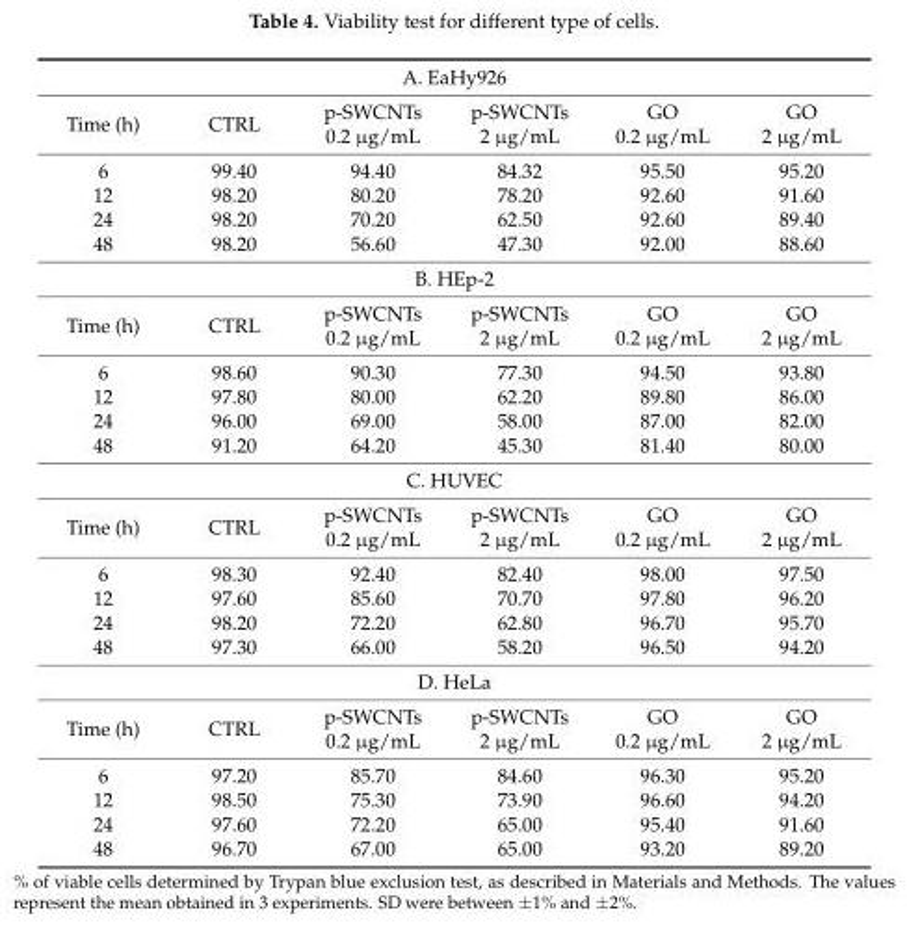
<table><tbody><tr><td colspan="6">A. EaHy926</td></tr><tr><td>Time (h)</td><td>CTRL</td><td>p-SWCNTs 0.2 µg/mL</td><td>p-SWCNTs 2 µg/mL</td><td>GO 0.2 µg/mL</td><td>GO 2 µg/mL</td></tr><tr><td>6</td><td>99.40</td><td>94.40</td><td>84.32</td><td>95.50</td><td>95.20</td></tr><tr><td>12</td><td>98.20</td><td>80.20</td><td>78.20</td><td>92.60</td><td>91.60</td></tr><tr><td>24</td><td>98.20</td><td>70.20</td><td>62.50</td><td>92.60</td><td>89.40</td></tr><tr><td>48</td><td>98.20</td><td>56.60</td><td>47.30</td><td>92.00</td><td>88.60</td></tr><tr><td colspan="6">B. HEp-2</td></tr><tr><td>Time (h)</td><td>CTRL</td><td>p-SWCNTs 0.2 µg/mL</td><td>p-SWCNTs 2 µg/mL</td><td>GO 0.2 µg/mL</td><td>GO 2 µg/mL</td></tr><tr><td>6</td><td>98.60</td><td>90.30</td><td>77.30</td><td>94.50</td><td>93.80</td></tr><tr><td>12</td><td>97.80</td><td>80.00</td><td>62.20</td><td>89.80</td><td>86.00</td></tr><tr><td>24</td><td>96.00</td><td>69.00</td><td>58.00</td><td>87.00</td><td>82.00</td></tr><tr><td>48</td><td>91.20</td><td>64.20</td><td>45.30</td><td>81.40</td><td>80.00</td></tr><tr><td colspan="6">C. HUVEC</td></tr><tr><td>Time (h)</td><td>CTRL</td><td>p-SWCNTs 0.2 µg/mL</td><td>p-SWCNTs 2 µg/mL</td><td>GO 0.2 µg/mL</td><td>GO 2 µg/mL</td></tr><tr><td>6</td><td>98.30</td><td>92.40</td><td>82.40</td><td>98.00</td><td>97.50</td></tr><tr><td>12</td><td>97.60</td><td>85.60</td><td>70.70</td><td>97.80</td><td>96.20</td></tr><tr><td>24</td><td>98.20</td><td>72.20</td><td>62.80</td><td>96.70</td><td>95.70</td></tr><tr><td>48</td><td>97.30</td><td>66.00</td><td>58.20</td><td>96.50</td><td>94.20</td></tr><tr><td colspan="6">D. HeLa</td></tr><tr><td>Time (h)</td><td>CTRL</td><td>p-SWCNTs 0.2 µg/mL</td><td>p-SWCNTs 2 µg/mL</td><td>GO 0.2 µg/mL</td><td>GO 2 µg/mL</td></tr><tr><td>6</td><td>97.20</td><td>85.70</td><td>84.60</td><td>96.30</td><td>95.20</td></tr><tr><td>12</td><td>98.50</td><td>75.30</td><td>73.90</td><td>96.60</td><td>94.20</td></tr><tr><td>24</td><td>97.60</td><td>72.20</td><td>65.00</td><td>95.40</td><td>91.60</td></tr><tr><td>48</td><td>96.70</td><td>67.00</td><td>65.00</td><td>93.20</td><td>89.20</td></tr></tbody></table>